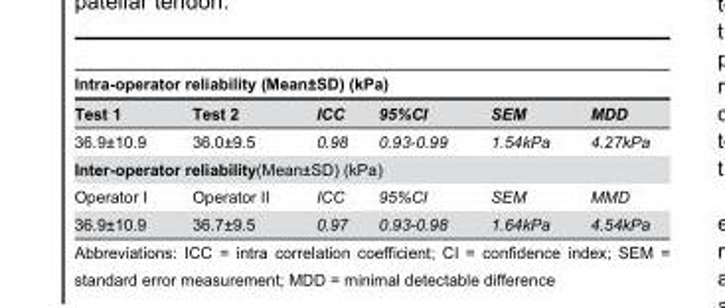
<table><thead><tr><td colspan="6">Intra-operator reliability (Mean±SD) (kPa)</td></tr><tr><td>Test 1</td><td>Test 2</td><td>ICC</td><td>95%CI</td><td>SEM</td><td>MDD</td></tr></thead><tbody><tr><td>36.9±10.9</td><td>36.0±9.5</td><td>0.98</td><td>0.93-0.99</td><td>1.54kPa</td><td>4.27kPa</td></tr><tr><td colspan="6">Inter-operator reliability(Mean±SD) (kPa)</td></tr><tr><td>Operator I</td><td>Operator II</td><td>ICC</td><td>95%CI</td><td>SEM</td><td>MMD</td></tr><tr><td>36.9±10.9</td><td>36.7±9.5</td><td>0.97</td><td>0.93-0.98</td><td>1.64kPa</td><td>4.54kPa</td></tr></tbody></table>